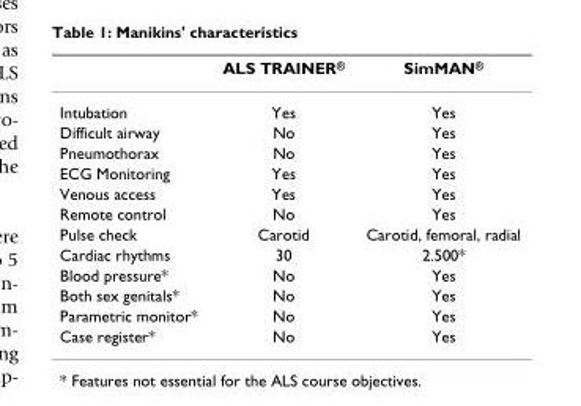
<table><thead><tr><td></td><td>ALS TRAINER<sup>®</sup></td><td>SimMAN<sup>®</sup></td></tr></thead><tbody><tr><td>Intubation</td><td>Yes</td><td>Yes</td></tr><tr><td>Difficult airway</td><td>No</td><td>Yes</td></tr><tr><td>Pneumothorax</td><td>No</td><td>Yes</td></tr><tr><td>ECG Monitoring</td><td>Yes</td><td>Yes</td></tr><tr><td>Venous access</td><td>Yes</td><td>Yes</td></tr><tr><td>Remote control</td><td>No</td><td>Yes</td></tr><tr><td>Pulse check</td><td>Carotid</td><td>Carotid, femoral, radial</td></tr><tr><td>Cardiac rhythms</td><td>30</td><td>2.500*</td></tr><tr><td>Blood pressure*</td><td>No</td><td>Yes</td></tr><tr><td>Both sex genitals*</td><td>No</td><td>Yes</td></tr><tr><td>Parametric monitor*</td><td>No</td><td>Yes</td></tr><tr><td>Case register*</td><td>No</td><td>Yes</td></tr></tbody></table>